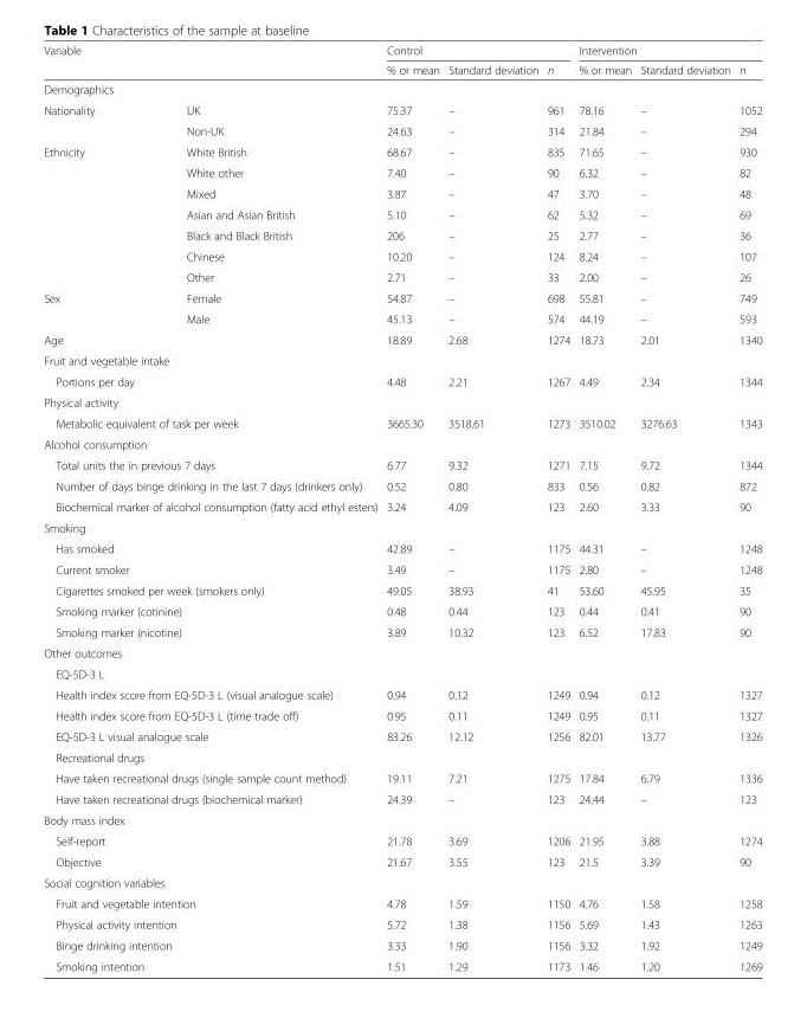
<table><thead><tr><td rowspan="2">Variable</td><td rowspan="2"></td><td colspan="3">Control</td><td colspan="3">Intervention</td></tr><tr><td>% or mean</td><td>Standard deviation</td><td>n</td><td>% or mean</td><td>Standard deviation</td><td>n</td></tr></thead><tbody><tr><td colspan="8">Demographics</td></tr><tr><td rowspan="2">Nationality</td><td>UK</td><td>75.37</td><td>–</td><td>961</td><td>78.16</td><td>–</td><td>1052</td></tr><tr><td>Non-UK</td><td>24.63</td><td>–</td><td>314</td><td>21.84</td><td>–</td><td>294</td></tr><tr><td rowspan="7">Ethnicity</td><td>White British</td><td>68.67</td><td>–</td><td>835</td><td>71.65</td><td>–</td><td>930</td></tr><tr><td>White other</td><td>7.40</td><td>–</td><td>90</td><td>6.32</td><td>–</td><td>82</td></tr><tr><td>Mixed</td><td>3.87</td><td>–</td><td>47</td><td>3.70</td><td>–</td><td>48</td></tr><tr><td>Asian and Asian British</td><td>5.10</td><td>–</td><td>62</td><td>5.32</td><td>–</td><td>69</td></tr><tr><td>Black and Black British</td><td>206</td><td>–</td><td>25</td><td>2.77</td><td>–</td><td>36</td></tr><tr><td>Chinese</td><td>10.20</td><td>–</td><td>124</td><td>8.24</td><td>–</td><td>107</td></tr><tr><td>Other</td><td>2.71</td><td>–</td><td>33</td><td>2.00</td><td>–</td><td>26</td></tr><tr><td rowspan="2">Sex</td><td>Female</td><td>54.87</td><td>–</td><td>698</td><td>55.81</td><td>–</td><td>749</td></tr><tr><td>Male</td><td>45.13</td><td>–</td><td>574</td><td>44.19</td><td>–</td><td>593</td></tr><tr><td>Age</td><td></td><td>18.89</td><td>2.68</td><td>1274</td><td>18.73</td><td>2.01</td><td>1340</td></tr><tr><td colspan="8">Fruit and vegetable intake</td></tr><tr><td colspan="2">Portions per day</td><td>4.48</td><td>2.21</td><td>1267</td><td>4.49</td><td>2.34</td><td>1344</td></tr><tr><td colspan="8">Physical activity</td></tr><tr><td colspan="2">Metabolic equivalent of task per week</td><td>3665.30</td><td>3518.61</td><td>1273</td><td>3510.02</td><td>3276.63</td><td>1343</td></tr><tr><td colspan="8">Alcohol consumption</td></tr><tr><td colspan="2">Total units the in previous 7 days</td><td>6.77</td><td>9.32</td><td>1271</td><td>7.15</td><td>9.72</td><td>1344</td></tr><tr><td colspan="2">Number of days binge drinking in the last 7 days (drinkers only)</td><td>0.52</td><td>0.80</td><td>833</td><td>0.56</td><td>0.82</td><td>872</td></tr><tr><td colspan="2">Biochemical marker of alcohol consumption (fatty acid ethyl esters)</td><td>3.24</td><td>4.09</td><td>123</td><td>2.60</td><td>3.33</td><td>90</td></tr><tr><td colspan="8">Smoking</td></tr><tr><td colspan="2">Has smoked</td><td>42.89</td><td>–</td><td>1175</td><td>44.31</td><td>–</td><td>1248</td></tr><tr><td colspan="2">Current smoker</td><td>3.49</td><td>–</td><td>1175</td><td>2.80</td><td>–</td><td>1248</td></tr><tr><td colspan="2">Cigarettes smoked per week (smokers only)</td><td>49.05</td><td>38.93</td><td>41</td><td>53.60</td><td>45.95</td><td>35</td></tr><tr><td colspan="2">Smoking marker (cotinine)</td><td>0.48</td><td>0.44</td><td>123</td><td>0.44</td><td>0.41</td><td>90</td></tr><tr><td colspan="2">Smoking marker (nicotine)</td><td>3.89</td><td>10.32</td><td>123</td><td>6.52</td><td>17.83</td><td>90</td></tr><tr><td colspan="8">Other outcomes</td></tr><tr><td colspan="8">EQ-5D-3 L</td></tr><tr><td colspan="2">Health index score from EQ-5D-3 L (visual analogue scale)</td><td>0.94</td><td>0.12</td><td>1249</td><td>0.94</td><td>0.12</td><td>1327</td></tr><tr><td colspan="2">Health index score from EQ-5D-3 L (time trade off)</td><td>0.95</td><td>0.11</td><td>1249</td><td>0.95</td><td>0.11</td><td>1327</td></tr><tr><td colspan="2">EQ-5D-3 L visual analogue scale</td><td>83.26</td><td>12.12</td><td>1256</td><td>82.01</td><td>13.77</td><td>1326</td></tr><tr><td colspan="8">Recreational drugs</td></tr><tr><td colspan="2">Have taken recreational drugs (single sample count method)</td><td>19.11</td><td>7.21</td><td>1275</td><td>17.84</td><td>6.79</td><td>1336</td></tr><tr><td colspan="2">Have taken recreational drugs (biochemical marker)</td><td>24.39</td><td>–</td><td>123</td><td>24.44</td><td>–</td><td>123</td></tr><tr><td colspan="8">Body mass index</td></tr><tr><td colspan="2">Self-report</td><td>21.78</td><td>3.69</td><td>1206</td><td>21.95</td><td>3.88</td><td>1274</td></tr><tr><td colspan="2">Objective</td><td>21.67</td><td>3.55</td><td>123</td><td>21.5</td><td>3.39</td><td>90</td></tr><tr><td colspan="8">Social cognition variables</td></tr><tr><td colspan="2">Fruit and vegetable intention</td><td>4.78</td><td>1.59</td><td>1150</td><td>4.76</td><td>1.58</td><td>1258</td></tr><tr><td colspan="2">Physical activity intention</td><td>5.72</td><td>1.38</td><td>1156</td><td>5.69</td><td>1.43</td><td>1263</td></tr><tr><td colspan="2">Binge drinking intention</td><td>3.33</td><td>1.90</td><td>1156</td><td>3.32</td><td>1.92</td><td>1249</td></tr><tr><td colspan="2">Smoking intention</td><td>1.51</td><td>1.29</td><td>1173</td><td>1.46</td><td>1.20</td><td>1269</td></tr></tbody></table>